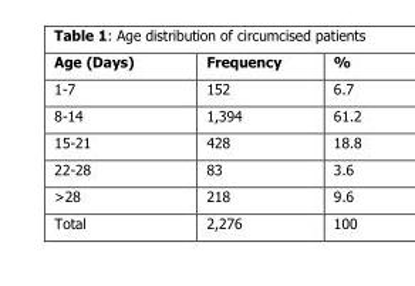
<table><thead><tr><td>Age (Days)</td><td>Frequency</td><td>%</td></tr></thead><tbody><tr><td>1-7</td><td>152</td><td>6.7</td></tr><tr><td>8-14</td><td>1,394</td><td>61.2</td></tr><tr><td>15-21</td><td>428</td><td>18.8</td></tr><tr><td>22-28</td><td>83</td><td>3.6</td></tr><tr><td>&gt;28</td><td>218</td><td>9.6</td></tr><tr><td>Total</td><td>2,276</td><td>100</td></tr></tbody></table>